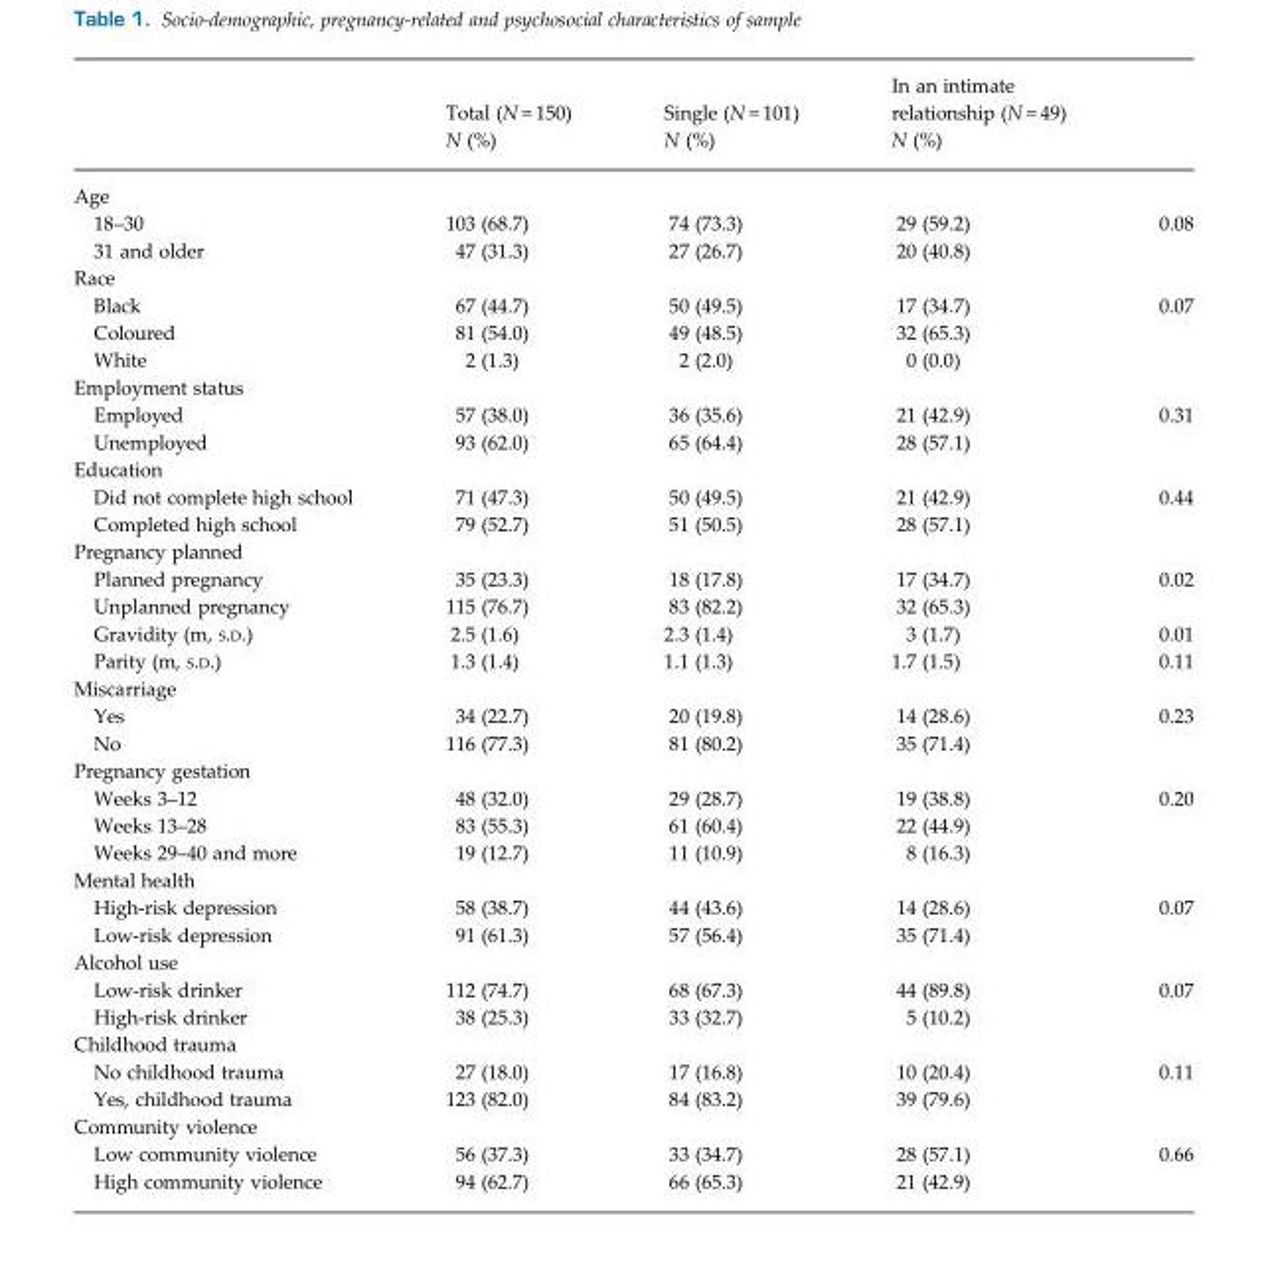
<table><thead><tr><td rowspan="2"></td><td rowspan="2">Total (N = 150) N (%)</td><td rowspan="2">Single (N = 101) N (%)</td><td rowspan="2">In an intimate relationship (N = 49) N (%)</td><td rowspan="2"></td></tr><tr></tr></thead><tbody><tr><td colspan="5">Age</td></tr><tr><td>18–30</td><td>103 (68.7)</td><td>74 (73.3)</td><td>29 (59.2)</td><td>0.08</td></tr><tr><td>31 and older</td><td>47 (31.3)</td><td>27 (26.7)</td><td>20 (40.8)</td><td></td></tr><tr><td colspan="5">Race</td></tr><tr><td>Black</td><td>67 (44.7)</td><td>50 (49.5)</td><td>17 (34.7)</td><td>0.07</td></tr><tr><td>Coloured</td><td>81 (54.0)</td><td>49 (48.5)</td><td>32 (65.3)</td><td></td></tr><tr><td>White</td><td>2 (1.3)</td><td>2 (2.0)</td><td>0 (0.0)</td><td></td></tr><tr><td colspan="5">Employment status</td></tr><tr><td>Employed</td><td>57 (38.0)</td><td>36 (35.6)</td><td>21 (42.9)</td><td>0.31</td></tr><tr><td>Unemployed</td><td>93 (62.0)</td><td>65 (64.4)</td><td>28 (57.1)</td><td></td></tr><tr><td colspan="5">Education</td></tr><tr><td>Did not complete high school</td><td>71 (47.3)</td><td>50 (49.5)</td><td>21 (42.9)</td><td>0.44</td></tr><tr><td>Completed high school</td><td>79 (52.7)</td><td>51 (50.5)</td><td>28 (57.1)</td><td></td></tr><tr><td colspan="5">Pregnancy planned</td></tr><tr><td>Planned pregnancy</td><td>35 (23.3)</td><td>18 (17.8)</td><td>17 (34.7)</td><td>0.02</td></tr><tr><td>Unplanned pregnancy</td><td>115 (76.7)</td><td>83 (82.2)</td><td>32 (65.3)</td><td></td></tr><tr><td>Gravidity (m, S.D.)</td><td>2.5 (1.6)</td><td>2.3 (1.4)</td><td>3 (1.7)</td><td>0.01</td></tr><tr><td>Parity (m, S.D.)</td><td>1.3 (1.4)</td><td>1.1 (1.3)</td><td>1.7 (1.5)</td><td>0.11</td></tr><tr><td colspan="5">Miscarriage</td></tr><tr><td>Yes</td><td>34 (22.7)</td><td>20 (19.8)</td><td>14 (28.6)</td><td>0.23</td></tr><tr><td>No</td><td>116 (77.3)</td><td>81 (80.2)</td><td>35 (71.4)</td><td></td></tr><tr><td colspan="5">Pregnancy gestation</td></tr><tr><td>Weeks 3–12</td><td>48 (32.0)</td><td>29 (28.7)</td><td>19 (38.8)</td><td>0.20</td></tr><tr><td>Weeks 13–28</td><td>83 (55.3)</td><td>61 (60.4)</td><td>22 (44.9)</td><td></td></tr><tr><td>Weeks 29–40 and more</td><td>19 (12.7)</td><td>11 (10.9)</td><td>8 (16.3)</td><td></td></tr><tr><td colspan="5">Mental health</td></tr><tr><td>High-risk depression</td><td>58 (38.7)</td><td>44 (43.6)</td><td>14 (28.6)</td><td>0.07</td></tr><tr><td>Low-risk depression</td><td>91 (61.3)</td><td>57 (56.4)</td><td>35 (71.4)</td><td></td></tr><tr><td colspan="5">Alcohol use</td></tr><tr><td>Low-risk drinker</td><td>112 (74.7)</td><td>68 (67.3)</td><td>44 (89.8)</td><td>0.07</td></tr><tr><td>High-risk drinker</td><td>38 (25.3)</td><td>33 (32.7)</td><td>5 (10.2)</td><td></td></tr><tr><td colspan="5">Childhood trauma</td></tr><tr><td>No childhood trauma</td><td>27 (18.0)</td><td>17 (16.8)</td><td>10 (20.4)</td><td>0.11</td></tr><tr><td>Yes, childhood trauma</td><td>123 (82.0)</td><td>84 (83.2)</td><td>39 (79.6)</td><td></td></tr><tr><td colspan="5">Community violence</td></tr><tr><td>Low community violence</td><td>56 (37.3)</td><td>33 (34.7)</td><td>28 (57.1)</td><td>0.66</td></tr><tr><td>High community violence</td><td>94 (62.7)</td><td>66 (65.3)</td><td>21 (42.9)</td><td></td></tr></tbody></table>